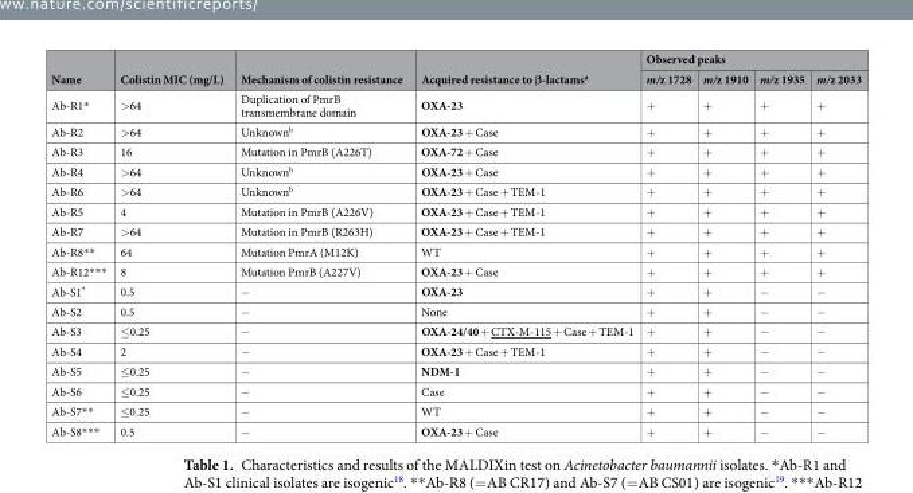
<table><thead><tr><td rowspan="2">Name</td><td rowspan="2">Colistin MIC (mg/L)</td><td rowspan="2">Mechanism of colistin resistance</td><td rowspan="2">Acquired resistance to β-lactams<sup>a</sup></td><td colspan="4">Observed peaks</td></tr><tr><td>m/z 1728</td><td>m/z 1910</td><td>m/z 1935</td><td>m/z 2033</td></tr></thead><tbody><tr><td>Ab-R1*</td><td>&gt;64</td><td>Duplication of PmrB transmembrane domain</td><td>OXA-23</td><td>+</td><td>+</td><td>+</td><td>+</td></tr><tr><td>Ab-R2</td><td>&gt;64</td><td>Unknown<sup>b</sup></td><td>OXA-23 + Case</td><td>+</td><td>+</td><td>+</td><td>+</td></tr><tr><td>Ab-R3</td><td>16</td><td>Mutation in PmrB (A226T)</td><td>OXA-72 + Case</td><td>+</td><td>+</td><td>+</td><td>+</td></tr><tr><td>Ab-R4</td><td>&gt;64</td><td>Unknown<sup>b</sup></td><td>OXA-23 + Case</td><td>+</td><td>+</td><td>+</td><td>+</td></tr><tr><td>Ab-R6</td><td>&gt;64</td><td>Unknown<sup>b</sup></td><td>OXA-23 + Case + TEM-1</td><td>+</td><td>+</td><td>+</td><td>+</td></tr><tr><td>Ab-R5</td><td>4</td><td>Mutation in PmrB (A226V)</td><td>OXA-23 + Case + TEM-1</td><td>+</td><td>+</td><td>+</td><td>+</td></tr><tr><td>Ab-R7</td><td>&gt;64</td><td>Mutation in PmrB (R263H)</td><td>OXA-23 + Case + TEM-1</td><td>+</td><td>+</td><td>+</td><td>+</td></tr><tr><td>Ab-R8**</td><td>64</td><td>Mutation PmrA (M12K)</td><td>WT</td><td>+</td><td>+</td><td>+</td><td>+</td></tr><tr><td>Ab-R12***</td><td>8</td><td>Mutation PmrB (A227V)</td><td>OXA-23 + Case</td><td>+</td><td>+</td><td>+</td><td>+</td></tr><tr><td>Ab-S1*</td><td>0.5</td><td>−</td><td>OXA-23</td><td>+</td><td>+</td><td>−</td><td>−</td></tr><tr><td>Ab-S2</td><td>0.5</td><td>−</td><td>None</td><td>+</td><td>+</td><td>−</td><td>−</td></tr><tr><td>Ab-S3</td><td>≤0.25</td><td>−</td><td>OXA-24/40 + CTX-M-115 + Case + TEM-1</td><td>+</td><td>+</td><td>−</td><td>−</td></tr><tr><td>Ab-S4</td><td>2</td><td>−</td><td>OXA-23 + Case + TEM-1</td><td>+</td><td>+</td><td>−</td><td>−</td></tr><tr><td>Ab-S5</td><td>≤0.25</td><td>−</td><td>NDM-1</td><td>+</td><td>+</td><td>−</td><td>−</td></tr><tr><td>Ab-S6</td><td>≤0.25</td><td>−</td><td>Case</td><td>+</td><td>+</td><td>−</td><td>−</td></tr><tr><td>Ab-S7**</td><td>≤0.25</td><td>−</td><td>WT</td><td>+</td><td>+</td><td>−</td><td>−</td></tr><tr><td>Ab-S8***</td><td>0.5</td><td>−</td><td>OXA-23 + Case</td><td>+</td><td>+</td><td>−</td><td>−</td></tr></tbody></table>